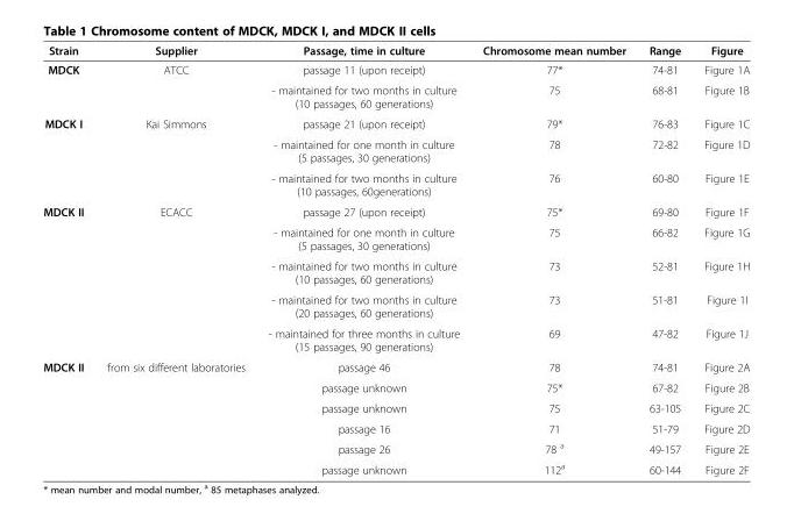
<table><thead><tr><td>Strain</td><td>Supplier</td><td>Passage, time in culture</td><td>Chromosome mean number</td><td>Range</td><td>Figure</td></tr></thead><tbody><tr><td rowspan="2">MDCK</td><td rowspan="2">ATCC</td><td>passage 11 (upon receipt)</td><td>77*</td><td>74-81</td><td>Figure 1A</td></tr><tr><td>- maintained for two months in culture (10 passages, 60 generations)</td><td>75</td><td>68-81</td><td>Figure 1B</td></tr><tr><td rowspan="3">MDCK I</td><td rowspan="3">Kai Simmons</td><td>passage 21 (upon receipt)</td><td>79*</td><td>76-83</td><td>Figure 1C</td></tr><tr><td>- maintained for one month in culture (5 passages, 30 generations)</td><td>78</td><td>72-82</td><td>Figure 1D</td></tr><tr><td>- maintained for two months in culture (10 passages, 60generations)</td><td>76</td><td>60-80</td><td>Figure 1E</td></tr><tr><td rowspan="5">MDCK II</td><td rowspan="5">ECACC</td><td>passage 27 (upon receipt)</td><td>75*</td><td>69-80</td><td>Figure 1F</td></tr><tr><td>- maintained for one month in culture (5 passages, 30 generations)</td><td>75</td><td>66-82</td><td>Figure 1G</td></tr><tr><td>- maintained for two months in culture (10 passages, 60 generations)</td><td>73</td><td>52-81</td><td>Figure 1H</td></tr><tr><td>- maintained for two months in culture (20 passages, 60 generations)</td><td>73</td><td>51-81</td><td>Figure 1I</td></tr><tr><td>- maintained for three months in culture (15 passages, 90 generations)</td><td>69</td><td>47-82</td><td>Figure 1J</td></tr><tr><td rowspan="6">MDCK II</td><td rowspan="4">from six different laboratories</td><td>passage 46</td><td>78</td><td>74-81</td><td>Figure 2A</td></tr><tr><td>passage unknown</td><td>75*</td><td>67-82</td><td>Figure 2B</td></tr><tr><td>passage unknown</td><td>75</td><td>63-105</td><td>Figure 2C</td></tr><tr><td>passage 16</td><td>71</td><td>51-79</td><td>Figure 2D</td></tr><tr><td></td><td>passage 26</td><td>78 <sup>a</sup></td><td>49-157</td><td>Figure 2E</td></tr><tr><td></td><td>passage unknown</td><td>112<sup>a</sup></td><td>60-144</td><td>Figure 2F</td></tr></tbody></table>